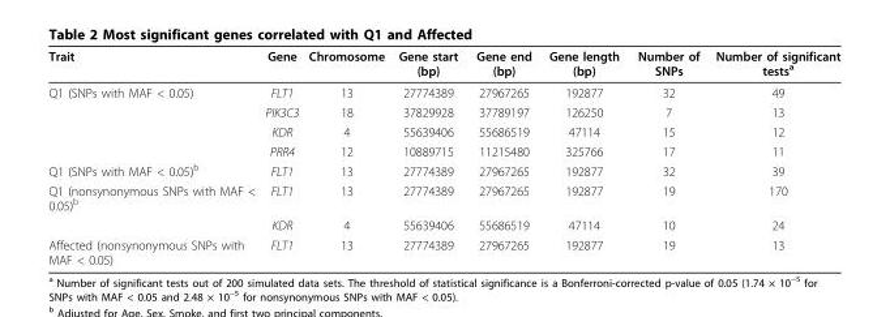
<table><thead><tr><td>Trait</td><td>Gene</td><td>Chromosome</td><td>Gene start (bp)</td><td>Gene end (bp)</td><td>Gene length (bp)</td><td>Number of SNPs</td><td>Number of significant tests<sup>a</sup></td></tr></thead><tbody><tr><td rowspan="4">Q1 (SNPs with MAF &lt; 0.05)</td><td>FLT1</td><td>13</td><td>27774389</td><td>27967265</td><td>192877</td><td>32</td><td>49</td></tr><tr><td>PIK3C3</td><td>18</td><td>37829928</td><td>37789197</td><td>126250</td><td>7</td><td>13</td></tr><tr><td>KDR</td><td>4</td><td>55639406</td><td>55686519</td><td>47114</td><td>15</td><td>12</td></tr><tr><td>PRR4</td><td>12</td><td>10889715</td><td>11215480</td><td>325766</td><td>17</td><td>11</td></tr><tr><td>Q1 (SNPs with MAF &lt; 0.05)<sup>b</sup></td><td>FLT1</td><td>13</td><td>27774389</td><td>27967265</td><td>192877</td><td>32</td><td>39</td></tr><tr><td rowspan="2">Q1 (nonsynonymous SNPs with MAF &lt; 0.05)<sup>b</sup></td><td>FLT1</td><td>13</td><td>27774389</td><td>27967265</td><td>192877</td><td>19</td><td>170</td></tr><tr><td>KDR</td><td>4</td><td>55639406</td><td>55686519</td><td>47114</td><td>10</td><td>24</td></tr><tr><td>Affected (nonsynonymous SNPs with MAF &lt; 0.05)</td><td>FLT1</td><td>13</td><td>27774389</td><td>27967265</td><td>192877</td><td>19</td><td>13</td></tr></tbody></table>